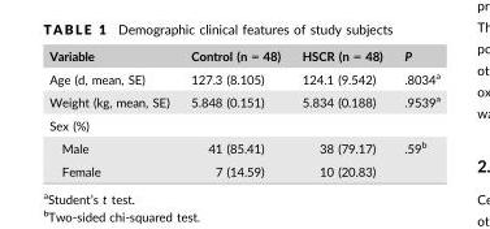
<table><thead><tr><td>Variable</td><td>Control (n = 48)</td><td>HSCR (n = 48)</td><td>P</td></tr></thead><tbody><tr><td>Age (d, mean, SE)</td><td>127.3 (8.105)</td><td>124.1 (9.542)</td><td>.8034<sup>a</sup></td></tr><tr><td>Weight (kg, mean, SE)</td><td>5.848 (0.151)</td><td>5.834 (0.188)</td><td>.9539<sup>a</sup></td></tr><tr><td colspan="4">Sex (%)</td></tr><tr><td>Male</td><td>41 (85.41)</td><td>38 (79.17)</td><td>.59<sup>b</sup></td></tr><tr><td>Female</td><td>7 (14.59)</td><td>10 (20.83)</td><td></td></tr></tbody></table>